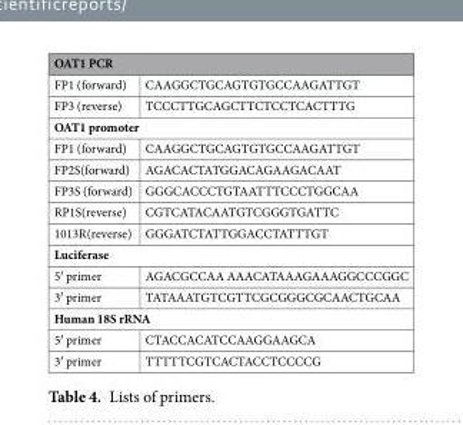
<table><thead><tr><td colspan="2">OAT1 PCR</td></tr><tr><td>FP1 (forward)</td><td>CAAGGCTGCAGTGTGCCAAGATTGT</td></tr></thead><tbody><tr><td>FP3 (reverse)</td><td>TCCCTTGCAGCTTCTCCTCACTTTG</td></tr><tr><td colspan="2">OAT1 promoter</td></tr><tr><td>FP1 (forward)</td><td>CAAGGCTGCAGTGTGCCAAGATTGT</td></tr><tr><td>FP2S(forward)</td><td>AGACACTATGGACAGAAGACAAT</td></tr><tr><td>FP3S (forward)</td><td>GGGCACCCTGTAATTTCCCTGGCAA</td></tr><tr><td>RP1S(reverse)</td><td>CGTCATACAATGTCGGGTGATTC</td></tr><tr><td>1013R(reverse)</td><td>GGGATCTATTGGACCTATTTGT</td></tr><tr><td colspan="2">Luciferase</td></tr><tr><td>5′ primer</td><td>AGACGCCAA AAACATAAAGAAAGGCCCGGC</td></tr><tr><td>3′ primer</td><td>TATAAATGTCGTTCGCGGGCGCAACTGCAA</td></tr><tr><td colspan="2">Human 18S rRNA</td></tr><tr><td>5′ primer</td><td>CTACCACATCCAAGGAAGCA</td></tr><tr><td>3′ primer</td><td>TTTTTCGTCACTACCTCCCCG</td></tr></tbody></table>